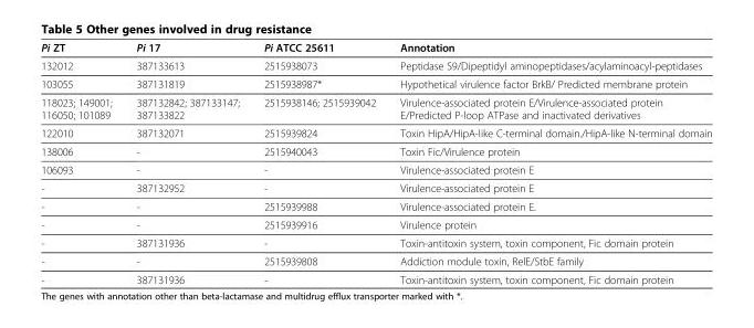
<table><thead><tr><td>Pi ZT</td><td>Pi 17</td><td>Pi ATCC 25611</td><td>Annotation</td></tr></thead><tbody><tr><td>132012</td><td>387133613</td><td>2515938073</td><td>Peptidase S9/Dipeptidyl aminopeptidases/acylaminoacyl-peptidases</td></tr><tr><td>103055</td><td>387131819</td><td>2515938987*</td><td>Hypothetical virulence factor BrkB/ Predicted membrane protein</td></tr><tr><td>118023; 149001; 116050; 101089</td><td>387132842; 387133147; 387133822</td><td>2515938146; 2515939042</td><td>Virulence-associated protein E/Virulence-associated protein E/Predicted P-loop ATPase and inactivated derivatives</td></tr><tr><td>122010</td><td>387132071</td><td>2515939824</td><td>Toxin HipA/HipA-like C-terminal domain./HipA-like N-terminal domain</td></tr><tr><td>138006</td><td>-</td><td>2515940043</td><td>Toxin Fic/Virulence protein</td></tr><tr><td>106093</td><td>-</td><td>-</td><td>Virulence-associated protein E</td></tr><tr><td>-</td><td>387132952</td><td>-</td><td>Virulence-associated protein E</td></tr><tr><td>-</td><td>-</td><td>2515939988</td><td>Virulence-associated protein E.</td></tr><tr><td>-</td><td>-</td><td>2515939916</td><td>Virulence protein</td></tr><tr><td>-</td><td>387131936</td><td>-</td><td>Toxin-antitoxin system, toxin component, Fic domain protein</td></tr><tr><td>-</td><td>-</td><td>2515939808</td><td>Addiction module toxin, RelE/StbE family</td></tr><tr><td>-</td><td>387131936</td><td>-</td><td>Toxin-antitoxin system, toxin component, Fic domain protein</td></tr></tbody></table>